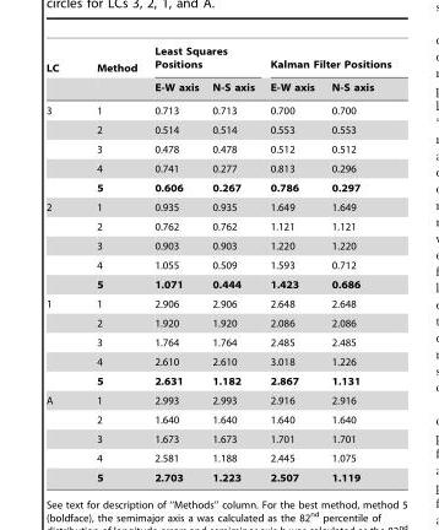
<table><thead><tr><td rowspan="2">LC</td><td rowspan="2">Method</td><td colspan="2">Least Squares Positions</td><td colspan="2">Kalman Filter Positions</td></tr><tr><td>E-W axis</td><td>N-S axis</td><td>E-W axis</td><td>N-S axis</td></tr></thead><tbody><tr><td rowspan="5">3</td><td>1</td><td>0.713</td><td>0.713</td><td>0.700</td><td>0.700</td></tr><tr><td>2</td><td>0.514</td><td>0.514</td><td>0.553</td><td>0.553</td></tr><tr><td>3</td><td>0.478</td><td>0.478</td><td>0.512</td><td>0.512</td></tr><tr><td>4</td><td>0.741</td><td>0.277</td><td>0.813</td><td>0.296</td></tr><tr><td>5</td><td>0.606</td><td>0.267</td><td>0.786</td><td>0.297</td></tr><tr><td rowspan="5">2</td><td>1</td><td>0.935</td><td>0.935</td><td>1.649</td><td>1.649</td></tr><tr><td>2</td><td>0.762</td><td>0.762</td><td>1.121</td><td>1.121</td></tr><tr><td>3</td><td>0.903</td><td>0.903</td><td>1.220</td><td>1.220</td></tr><tr><td>4</td><td>1.055</td><td>0.509</td><td>1.593</td><td>0.712</td></tr><tr><td>5</td><td>1.071</td><td>0.444</td><td>1.423</td><td>0.686</td></tr><tr><td rowspan="5">1</td><td>1</td><td>2.906</td><td>2.906</td><td>2.648</td><td>2.648</td></tr><tr><td>2</td><td>1.920</td><td>1.920</td><td>2.086</td><td>2.086</td></tr><tr><td>3</td><td>1.764</td><td>1.764</td><td>2.485</td><td>2.485</td></tr><tr><td>4</td><td>2.610</td><td>2.610</td><td>3.018</td><td>1.226</td></tr><tr><td>5</td><td>2.631</td><td>1.182</td><td>2.867</td><td>1.131</td></tr><tr><td rowspan="5">A</td><td>1</td><td>2.993</td><td>2.993</td><td>2.916</td><td>2.916</td></tr><tr><td>2</td><td>1.640</td><td>1.640</td><td>1.640</td><td>1.640</td></tr><tr><td>3</td><td>1.673</td><td>1.673</td><td>1.701</td><td>1.701</td></tr><tr><td>4</td><td>2.581</td><td>1.188</td><td>2.445</td><td>1.075</td></tr><tr><td>5</td><td>2.703</td><td>1.223</td><td>2.507</td><td>1.119</td></tr></tbody></table>